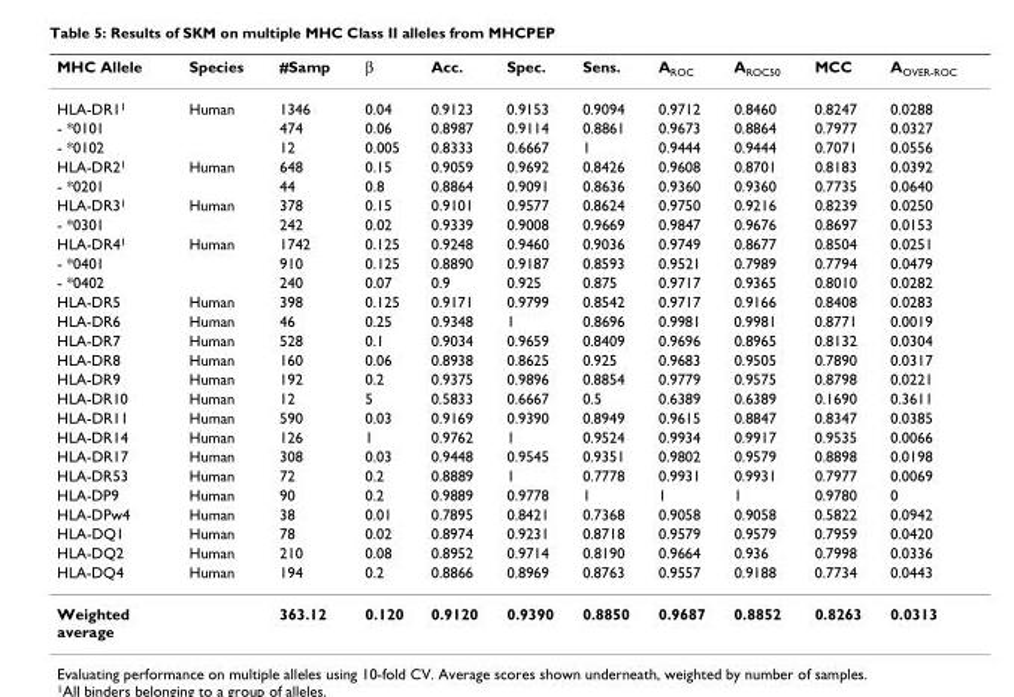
<table><thead><tr><td>MHC Allele</td><td>Species</td><td>#Samp</td><td>β</td><td>Acc.</td><td>Spec.</td><td>Sens.</td><td>A<sub>ROC</sub></td><td>A<sub>ROC50</sub></td><td>MCC</td><td>A<sub>OVER-ROC</sub></td></tr></thead><tbody><tr><td>HLA-DR1<sup>1</sup></td><td>Human</td><td>1346</td><td>0.04</td><td>0.9123</td><td>0.9153</td><td>0.9094</td><td>0.9712</td><td>0.8460</td><td>0.8247</td><td>0.0288</td></tr><tr><td>- *0101</td><td></td><td>474</td><td>0.06</td><td>0.8987</td><td>0.9114</td><td>0.8861</td><td>0.9673</td><td>0.8864</td><td>0.7977</td><td>0.0327</td></tr><tr><td>- *0102</td><td></td><td>12</td><td>0.005</td><td>0.8333</td><td>0.6667</td><td>1</td><td>0.9444</td><td>0.9444</td><td>0.7071</td><td>0.0556</td></tr><tr><td>HLA-DR2<sup>1</sup></td><td>Human</td><td>648</td><td>0.15</td><td>0.9059</td><td>0.9692</td><td>0.8426</td><td>0.9608</td><td>0.8701</td><td>0.8183</td><td>0.0392</td></tr><tr><td>- *0201</td><td></td><td>44</td><td>0.8</td><td>0.8864</td><td>0.9091</td><td>0.8636</td><td>0.9360</td><td>0.9360</td><td>0.7735</td><td>0.0640</td></tr><tr><td>HLA-DR3<sup>1</sup></td><td>Human</td><td>378</td><td>0.15</td><td>0.9101</td><td>0.9577</td><td>0.8624</td><td>0.9750</td><td>0.9216</td><td>0.8239</td><td>0.0250</td></tr><tr><td>- *0301</td><td></td><td>242</td><td>0.02</td><td>0.9339</td><td>0.9008</td><td>0.9669</td><td>0.9847</td><td>0.9676</td><td>0.8697</td><td>0.0153</td></tr><tr><td>HLA-DR4<sup>1</sup></td><td>Human</td><td>1742</td><td>0.125</td><td>0.9248</td><td>0.9460</td><td>0.9036</td><td>0.9749</td><td>0.8677</td><td>0.8504</td><td>0.0251</td></tr><tr><td>- *0401</td><td></td><td>910</td><td>0.125</td><td>0.8890</td><td>0.9187</td><td>0.8593</td><td>0.9521</td><td>0.7989</td><td>0.7794</td><td>0.0479</td></tr><tr><td>- *0402</td><td></td><td>240</td><td>0.07</td><td>0.9</td><td>0.925</td><td>0.875</td><td>0.9717</td><td>0.9365</td><td>0.8010</td><td>0.0282</td></tr><tr><td>HLA-DR5</td><td>Human</td><td>398</td><td>0.125</td><td>0.9171</td><td>0.9799</td><td>0.8542</td><td>0.9717</td><td>0.9166</td><td>0.8408</td><td>0.0283</td></tr><tr><td>HLA-DR6</td><td>Human</td><td>46</td><td>0.25</td><td>0.9348</td><td>1</td><td>0.8696</td><td>0.9981</td><td>0.9981</td><td>0.8771</td><td>0.0019</td></tr><tr><td>HLA-DR7</td><td>Human</td><td>528</td><td>0.1</td><td>0.9034</td><td>0.9659</td><td>0.8409</td><td>0.9696</td><td>0.8965</td><td>0.8132</td><td>0.0304</td></tr><tr><td>HLA-DR8</td><td>Human</td><td>160</td><td>0.06</td><td>0.8938</td><td>0.8625</td><td>0.925</td><td>0.9683</td><td>0.9505</td><td>0.7890</td><td>0.0317</td></tr><tr><td>HLA-DR9</td><td>Human</td><td>192</td><td>0.2</td><td>0.9375</td><td>0.9896</td><td>0.8854</td><td>0.9779</td><td>0.9575</td><td>0.8798</td><td>0.0221</td></tr><tr><td>HLA-DR10</td><td>Human</td><td>12</td><td>5</td><td>0.5833</td><td>0.6667</td><td>0.5</td><td>0.6389</td><td>0.6389</td><td>0.1690</td><td>0.3611</td></tr><tr><td>HLA-DR11</td><td>Human</td><td>590</td><td>0.03</td><td>0.9169</td><td>0.9390</td><td>0.8949</td><td>0.9615</td><td>0.8847</td><td>0.8347</td><td>0.0385</td></tr><tr><td>HLA-DR14</td><td>Human</td><td>126</td><td>1</td><td>0.9762</td><td>1</td><td>0.9524</td><td>0.9934</td><td>0.9917</td><td>0.9535</td><td>0.0066</td></tr><tr><td>HLA-DR17</td><td>Human</td><td>308</td><td>0.03</td><td>0.9448</td><td>0.9545</td><td>0.9351</td><td>0.9802</td><td>0.9579</td><td>0.8898</td><td>0.0198</td></tr><tr><td>HLA-DR53</td><td>Human</td><td>72</td><td>0.2</td><td>0.8889</td><td>1</td><td>0.7778</td><td>0.9931</td><td>0.9931</td><td>0.7977</td><td>0.0069</td></tr><tr><td>HLA-DP9</td><td>Human</td><td>90</td><td>0.2</td><td>0.9889</td><td>0.9778</td><td>1</td><td>1</td><td>1</td><td>0.9780</td><td>0</td></tr><tr><td>HLA-DPw4</td><td>Human</td><td>38</td><td>0.01</td><td>0.7895</td><td>0.8421</td><td>0.7368</td><td>0.9058</td><td>0.9058</td><td>0.5822</td><td>0.0942</td></tr><tr><td>HLA-DQ1</td><td>Human</td><td>78</td><td>0.02</td><td>0.8974</td><td>0.9231</td><td>0.8718</td><td>0.9579</td><td>0.9579</td><td>0.7959</td><td>0.0420</td></tr><tr><td>HLA-DQ2</td><td>Human</td><td>210</td><td>0.08</td><td>0.8952</td><td>0.9714</td><td>0.8190</td><td>0.9664</td><td>0.936</td><td>0.7998</td><td>0.0336</td></tr><tr><td>HLA-DQ4</td><td>Human</td><td>194</td><td>0.2</td><td>0.8866</td><td>0.8969</td><td>0.8763</td><td>0.9557</td><td>0.9188</td><td>0.7734</td><td>0.0443</td></tr><tr><td>Weighted average</td><td></td><td>363.12</td><td>0.120</td><td>0.9120</td><td>0.9390</td><td>0.8850</td><td>0.9687</td><td>0.8852</td><td>0.8263</td><td>0.0313</td></tr></tbody></table>